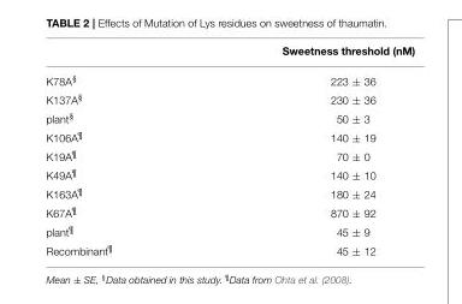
<table><thead><tr><td></td><td>Sweetness threshold (nM)</td></tr></thead><tbody><tr><td>K78A<sup>§</sup></td><td>223 ± 36</td></tr><tr><td>K137A<sup>§</sup></td><td>230 ± 36</td></tr><tr><td>plant<sup>§</sup></td><td>50 ± 3</td></tr><tr><td>K106A<sup>¶</sup></td><td>140 ± 19</td></tr><tr><td>K19A<sup>¶</sup></td><td>70 ± 0</td></tr><tr><td>K49A<sup>¶</sup></td><td>140 ± 10</td></tr><tr><td>K163A<sup>¶</sup></td><td>180 ± 24</td></tr><tr><td>K67A<sup>¶</sup></td><td>870 ± 92</td></tr><tr><td>plant<sup>¶</sup></td><td>45 ± 9</td></tr><tr><td>Recombinant<sup>¶</sup></td><td>45 ± 12</td></tr></tbody></table>